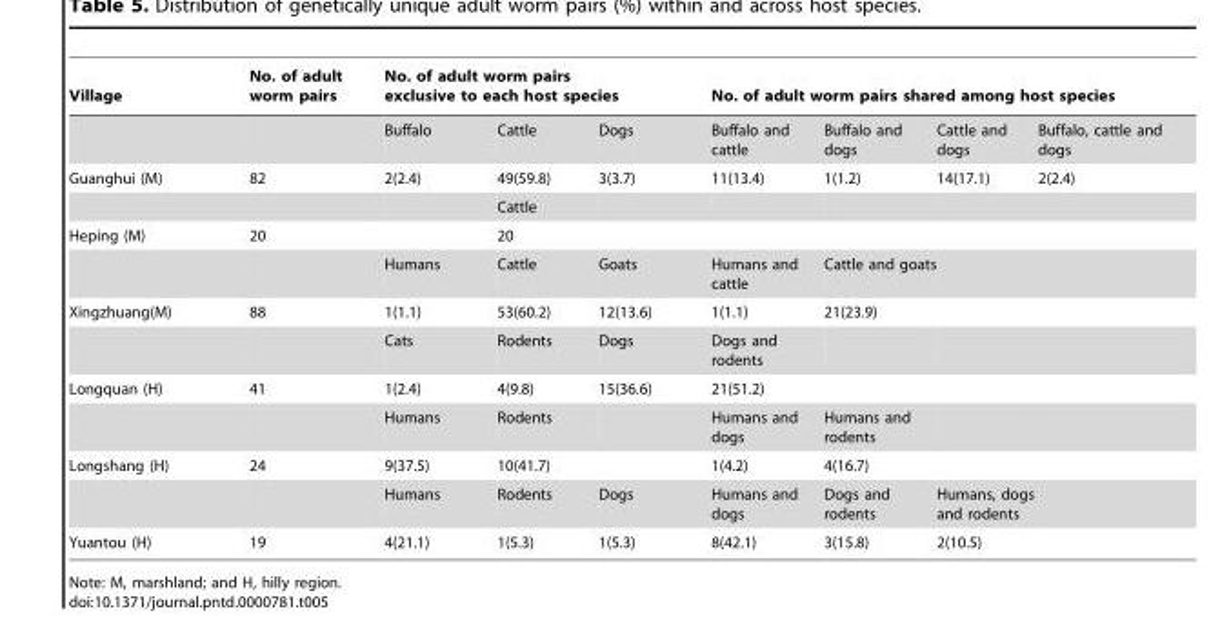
<table><thead><tr><td rowspan="2">Village</td><td rowspan="2">No. of adult worm pairs</td><td colspan="3">No. of adult worm pairs exclusive to each host species</td><td colspan="4">No. of adult worm pairs shared among host species</td></tr><tr><td>Buffalo</td><td>Cattle</td><td>Dogs</td><td>Buffalo and cattle</td><td>Buffalo and dogs</td><td>Cattle and dogs</td><td>Buffalo, cattle and dogs</td></tr></thead><tbody><tr><td rowspan="2">Guanghui (M)</td><td>82</td><td>2(2.4)</td><td>49(59.8)</td><td>3(3.7)</td><td>11(13.4)</td><td>1(1.2)</td><td>14(17.1)</td><td>2(2.4)</td></tr><tr><td></td><td></td><td>Cattle</td><td></td><td></td><td></td><td></td><td></td></tr><tr><td rowspan="2">Heping (M)</td><td>20</td><td></td><td>20</td><td></td><td></td><td></td><td></td><td></td></tr><tr><td></td><td>Humans</td><td>Cattle</td><td>Goats</td><td>Humans and cattle</td><td>Cattle and goats</td><td></td><td></td></tr><tr><td rowspan="2">Xingzhuang(M)</td><td>88</td><td>1(1.1)</td><td>53(60.2)</td><td>12(13.6)</td><td>1(1.1)</td><td>21(23.9)</td><td></td><td></td></tr><tr><td></td><td>Cats</td><td>Rodents</td><td>Dogs</td><td>Dogs and rodents</td><td></td><td></td><td></td></tr><tr><td rowspan="2">Longquan (H)</td><td>41</td><td>1(2.4)</td><td>4(9.8)</td><td>15(36.6)</td><td>21(51.2)</td><td></td><td></td><td></td></tr><tr><td></td><td>Humans</td><td>Rodents</td><td></td><td>Humans and dogs</td><td>Humans and rodents</td><td></td><td></td></tr><tr><td rowspan="2">Longshang (H)</td><td>24</td><td>9(37.5)</td><td>10(41.7)</td><td></td><td>1(4.2)</td><td>4(16.7)</td><td></td><td></td></tr><tr><td></td><td>Humans</td><td>Rodents</td><td>Dogs</td><td>Humans and dogs</td><td>Dogs and rodents</td><td>Humans, dogs and rodents</td><td></td></tr><tr><td>Yuantou (H)</td><td>19</td><td>4(21.1)</td><td>1(5.3)</td><td>1(5.3)</td><td>8(42.1)</td><td>3(15.8)</td><td>2(10.5)</td><td></td></tr></tbody></table>